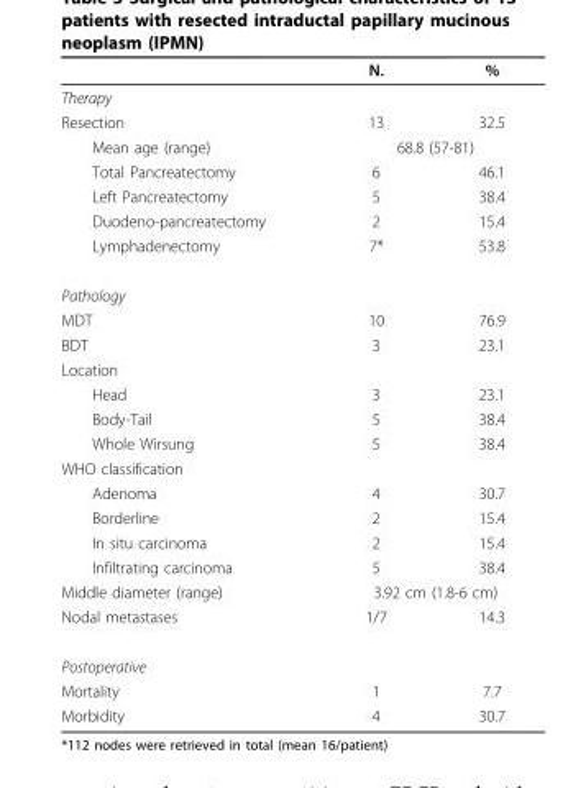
<table><thead><tr><td></td><td>N.</td><td>%</td></tr></thead><tbody><tr><td colspan="3">Therapy</td></tr><tr><td>Resection</td><td>13</td><td>32.5</td></tr><tr><td>Mean age (range)</td><td colspan="2">68.8 (57-81)</td></tr><tr><td>Total Pancreatectomy</td><td>6</td><td>46.1</td></tr><tr><td>Left Pancreatectomy</td><td>5</td><td>38.4</td></tr><tr><td>Duodeno-pancreatectomy</td><td>2</td><td>15.4</td></tr><tr><td>Lymphadenectomy</td><td>7*</td><td>53.8</td></tr><tr><td colspan="3">Pathology</td></tr><tr><td>MDT</td><td>10</td><td>76.9</td></tr><tr><td>BDT</td><td>3</td><td>23.1</td></tr><tr><td colspan="3">Location</td></tr><tr><td>Head</td><td>3</td><td>23.1</td></tr><tr><td>Body-Tail</td><td>5</td><td>38.4</td></tr><tr><td>Whole Wirsung</td><td>5</td><td>38.4</td></tr><tr><td colspan="3">WHO classification</td></tr><tr><td>Adenoma</td><td>4</td><td>30.7</td></tr><tr><td>Borderline</td><td>2</td><td>15.4</td></tr><tr><td>In situ carcinoma</td><td>2</td><td>15.4</td></tr><tr><td>Infiltrating carcinoma</td><td>5</td><td>38.4</td></tr><tr><td>Middle diameter (range)</td><td colspan="2">3.92 cm (1.8-6 cm)</td></tr><tr><td>Nodal metastases</td><td>1/7</td><td>14.3</td></tr><tr><td colspan="3">Postoperative</td></tr><tr><td>Mortality</td><td>1</td><td>7.7</td></tr><tr><td>Morbidity</td><td>4</td><td>30.7</td></tr></tbody></table>